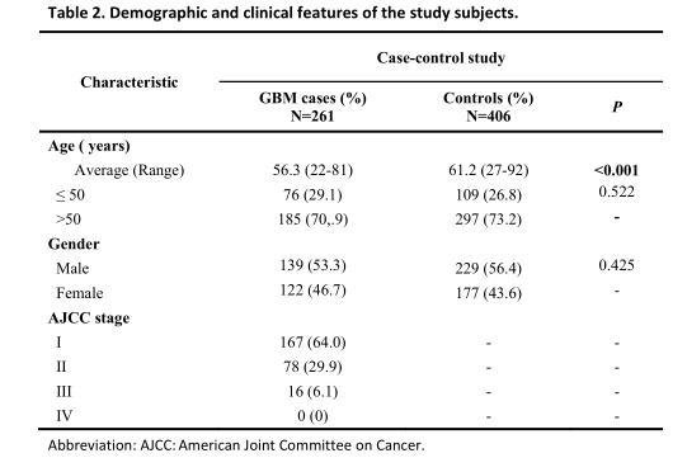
<table><tbody><tr><td rowspan="2">Characteristic</td><td colspan="3">Case-control study</td></tr><tr><td>GBM cases (%) N=261</td><td>Controls (%) N=406</td><td>P</td></tr><tr><td colspan="4">Age ( years)</td></tr><tr><td>Average (Range)</td><td>56.3 (22-81)</td><td>61.2 (27-92)</td><td>&lt;0.001</td></tr><tr><td>≤ 50</td><td>76 (29.1)</td><td>109 (26.8)</td><td>0.522</td></tr><tr><td>&gt;50</td><td>185 (70,.9)</td><td>297 (73.2)</td><td>-</td></tr><tr><td colspan="4">Gender</td></tr><tr><td>Male</td><td>139 (53.3)</td><td>229 (56.4)</td><td>0.425</td></tr><tr><td>Female</td><td>122 (46.7)</td><td>177 (43.6)</td><td>-</td></tr><tr><td colspan="4">AJCC stage</td></tr><tr><td>I</td><td>167 (64.0)</td><td>-</td><td>-</td></tr><tr><td>II</td><td>78 (29.9)</td><td>-</td><td>-</td></tr><tr><td>III</td><td>16 (6.1)</td><td>-</td><td>-</td></tr><tr><td>IV</td><td>0 (0)</td><td>-</td><td>-</td></tr></tbody></table>